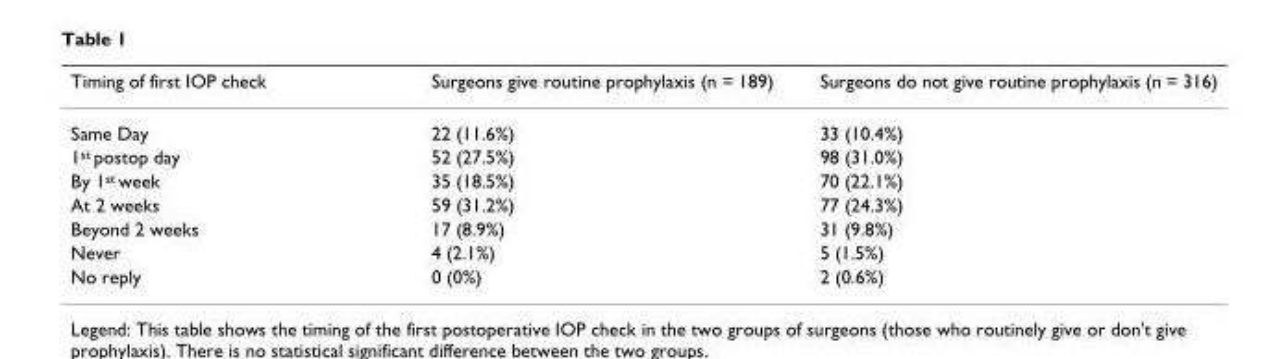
<table><thead><tr><td>Timing of first IOP check</td><td>Surgeons give routine prophylaxis (n = 189)</td><td>Surgeons do not give routine prophylaxis (n = 316)</td></tr></thead><tbody><tr><td>Same Day</td><td>22 (11.6%)</td><td>33 (10.4%)</td></tr><tr><td>1st postop day</td><td>52 (27.5%)</td><td>98 (31.0%)</td></tr><tr><td>By 1st week</td><td>35 (18.5%)</td><td>70 (22.1%)</td></tr><tr><td>At 2 weeks</td><td>59 (31.2%)</td><td>77 (24.3%)</td></tr><tr><td>Beyond 2 weeks</td><td>17 (8.9%)</td><td>31 (9.8%)</td></tr><tr><td>Never</td><td>4 (2.1%)</td><td>5 (1.5%)</td></tr><tr><td>No reply</td><td>0 (0%)</td><td>2 (0.6%)</td></tr></tbody></table>